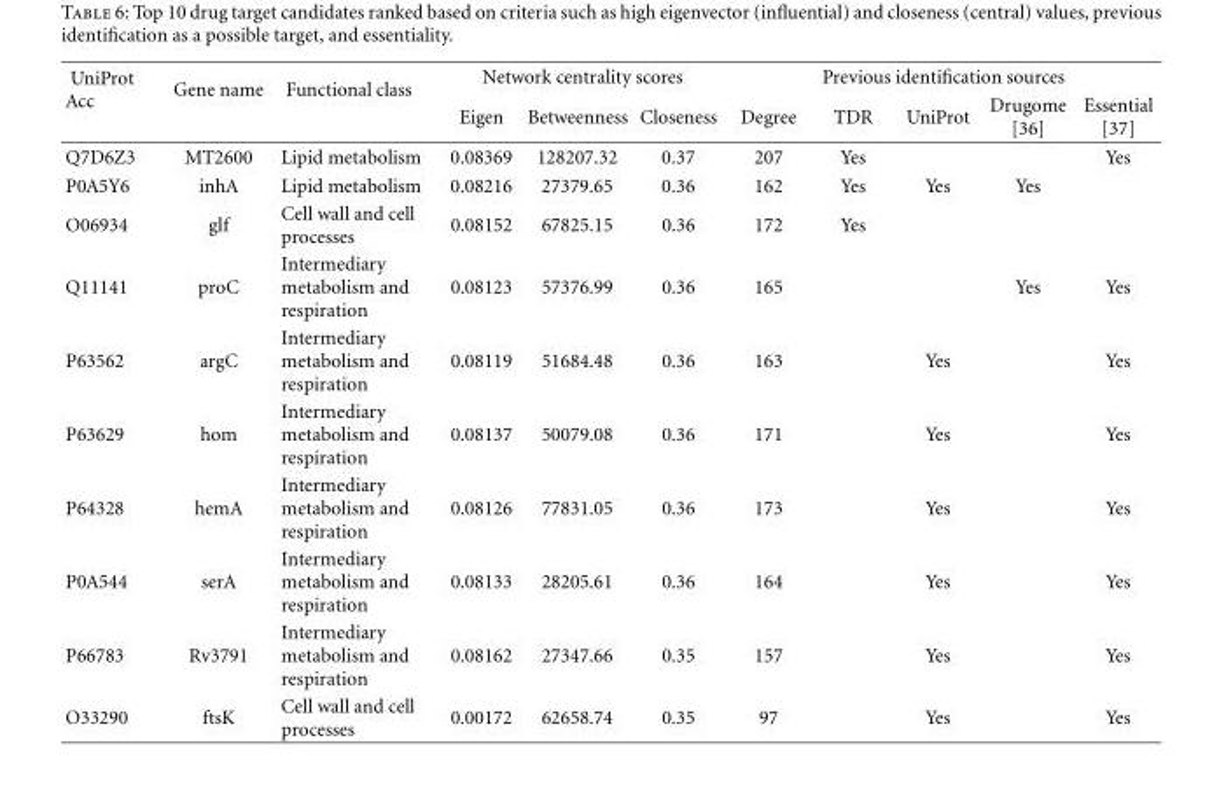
<table><thead><tr><td rowspan="2">UniProt Acc</td><td rowspan="2">Gene name</td><td rowspan="2">Functional class</td><td colspan="3">Network centrality scores</td><td colspan="5">Previous identification sources</td></tr><tr><td>Eigen</td><td>Betweenness</td><td>Closeness</td><td>Degree</td><td>TDR</td><td>UniProt</td><td>Drugome [36]</td><td>Essential [37]</td></tr></thead><tbody><tr><td>Q7D6Z3</td><td>MT2600</td><td>Lipid metabolism</td><td>0.08369</td><td>128207.32</td><td>0.37</td><td>207</td><td>Yes</td><td></td><td></td><td>Yes</td></tr><tr><td>P0A5Y6</td><td>inhA</td><td>Lipid metabolism</td><td>0.08216</td><td>27379.65</td><td>0.36</td><td>162</td><td>Yes</td><td>Yes</td><td>Yes</td><td></td></tr><tr><td>O06934</td><td>glf</td><td>Cell wall and cell processes</td><td>0.08152</td><td>67825.15</td><td>0.36</td><td>172</td><td>Yes</td><td></td><td></td><td></td></tr><tr><td>Q11141</td><td>proC</td><td>Intermediary metabolism and respiration</td><td>0.08123</td><td>57376.99</td><td>0.36</td><td>165</td><td></td><td></td><td>Yes</td><td>Yes</td></tr><tr><td>P63562</td><td>argC</td><td>Intermediary metabolism and respiration</td><td>0.08119</td><td>51684.48</td><td>0.36</td><td>163</td><td></td><td>Yes</td><td></td><td>Yes</td></tr><tr><td>P63629</td><td>hom</td><td>Intermediary metabolism and respiration</td><td>0.08137</td><td>50079.08</td><td>0.36</td><td>171</td><td></td><td>Yes</td><td></td><td>Yes</td></tr><tr><td>P64328</td><td>hemA</td><td>Intermediary metabolism and respiration</td><td>0.08126</td><td>77831.05</td><td>0.36</td><td>173</td><td></td><td>Yes</td><td></td><td>Yes</td></tr><tr><td>P0A544</td><td>serA</td><td>Intermediary metabolism and respiration</td><td>0.08133</td><td>28205.61</td><td>0.36</td><td>164</td><td></td><td>Yes</td><td></td><td>Yes</td></tr><tr><td>P66783</td><td>Rv3791</td><td>Intermediary metabolism and respiration</td><td>0.08162</td><td>27347.66</td><td>0.35</td><td>157</td><td></td><td>Yes</td><td></td><td>Yes</td></tr><tr><td>O33290</td><td>ftsK</td><td>Cell wall and cell processes</td><td>0.00172</td><td>62658.74</td><td>0.35</td><td>97</td><td></td><td>Yes</td><td></td><td>Yes</td></tr></tbody></table>